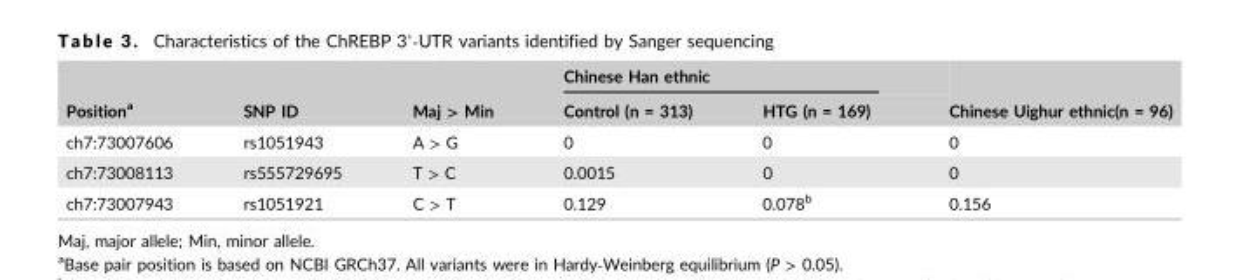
<table><thead><tr><td rowspan="2">Position<sup>a</sup></td><td rowspan="2">SNP ID</td><td rowspan="2">Maj &gt; Min</td><td colspan="2">Chinese Han ethnic</td><td rowspan="2">Chinese Uighur ethnic(n = 96)</td></tr><tr><td>Control (n = 313)</td><td>HTG (n = 169)</td></tr></thead><tbody><tr><td>ch7:73007606</td><td>rs1051943</td><td>A &gt; G</td><td>0</td><td>0</td><td>0</td></tr><tr><td>ch7:73008113</td><td>rs555729695</td><td>T &gt; C</td><td>0.0015</td><td>0</td><td>0</td></tr><tr><td>ch7:73007943</td><td>rs1051921</td><td>C &gt; T</td><td>0.129</td><td>0.078<sup>b</sup></td><td>0.156</td></tr></tbody></table>